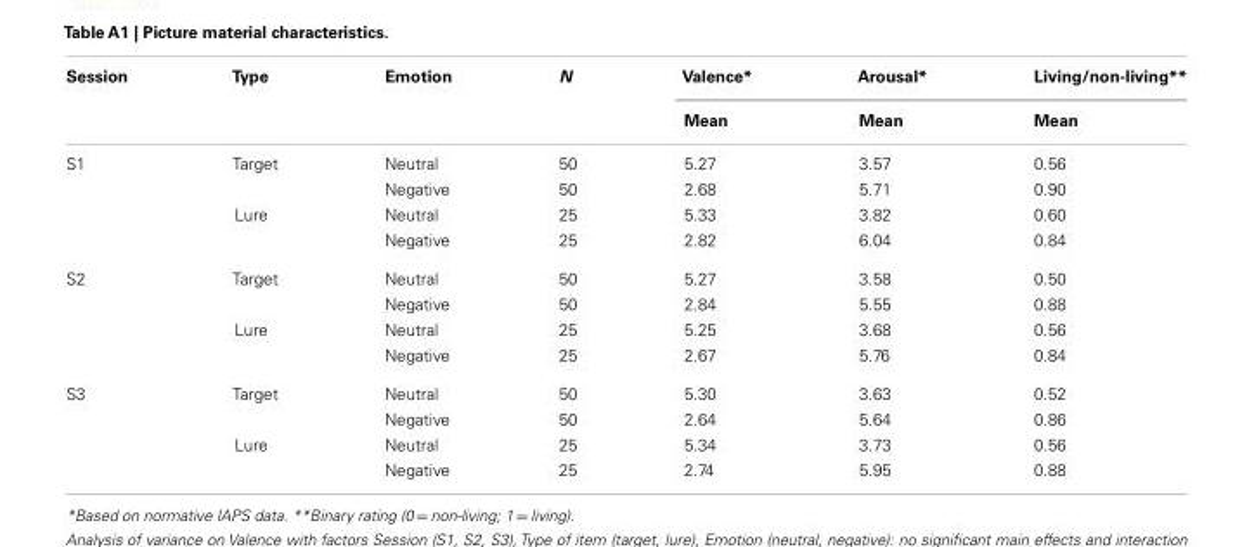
<table><thead><tr><td rowspan="2">Session</td><td rowspan="2">Type</td><td rowspan="2">Emotion</td><td rowspan="2">N</td><td rowspan="2">Valence* Mean</td><td rowspan="2">Arousal* Mean</td><td rowspan="2">Living/non-living** Mean</td></tr><tr></tr></thead><tbody><tr><td rowspan="4">S1</td><td>Target</td><td>Neutral</td><td>50</td><td>5.27</td><td>3.57</td><td>0.56</td></tr><tr><td></td><td>Negative</td><td>50</td><td>2.68</td><td>5.71</td><td>0.90</td></tr><tr><td>Lure</td><td>Neutral</td><td>25</td><td>5.33</td><td>3.82</td><td>0.60</td></tr><tr><td></td><td>Negative</td><td>25</td><td>2.82</td><td>6.04</td><td>0.84</td></tr><tr><td rowspan="4">S2</td><td>Target</td><td>Neutral</td><td>50</td><td>5.27</td><td>3.58</td><td>0.50</td></tr><tr><td></td><td>Negative</td><td>50</td><td>2.84</td><td>5.55</td><td>0.88</td></tr><tr><td>Lure</td><td>Neutral</td><td>25</td><td>5.25</td><td>3.68</td><td>0.56</td></tr><tr><td></td><td>Negative</td><td>25</td><td>2.67</td><td>5.76</td><td>0.84</td></tr><tr><td rowspan="4">S3</td><td>Target</td><td>Neutral</td><td>50</td><td>5.30</td><td>3.63</td><td>0.52</td></tr><tr><td></td><td>Negative</td><td>50</td><td>2.64</td><td>5.64</td><td>0.86</td></tr><tr><td>Lure</td><td>Neutral</td><td>25</td><td>5.34</td><td>3.73</td><td>0.56</td></tr><tr><td></td><td>Negative</td><td>25</td><td>2.74</td><td>5.95</td><td>0.88</td></tr></tbody></table>